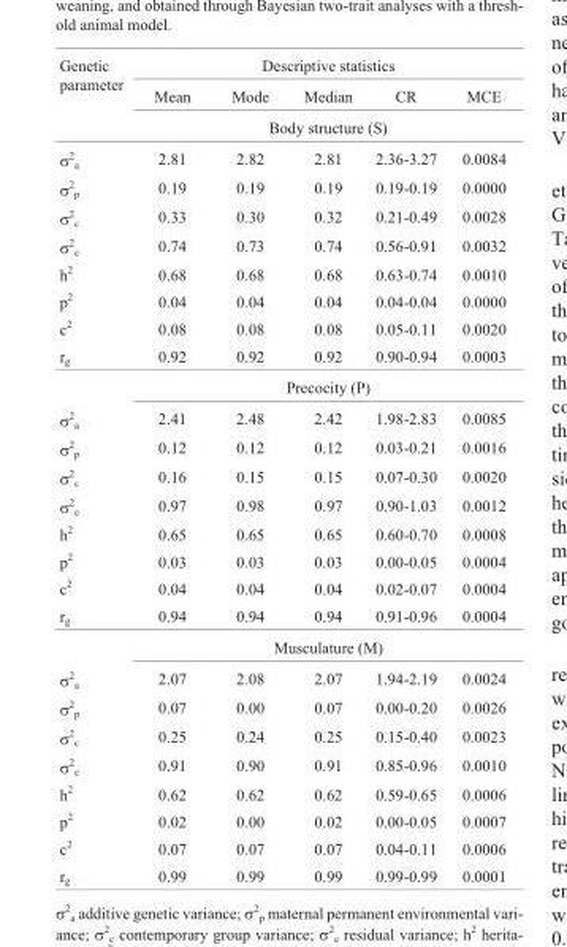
<table><thead><tr><td rowspan="3">Genetic parameter</td><td colspan="5">Descriptive statistics</td></tr><tr><td>Mean</td><td>Mode</td><td>Median</td><td>CR</td><td>MCE</td></tr><tr><td colspan="5">Body structure (S)</td></tr></thead><tbody><tr><td>σ<sup>2</sup> <sub>a</sub></td><td>2.81</td><td>2.82</td><td>2.81</td><td>2.36-3.27</td><td>0.0084</td></tr><tr><td>σ<sup>2</sup> <sub>p</sub></td><td>0.19</td><td>0.19</td><td>0.19</td><td>0.19-0.19</td><td>0.0000</td></tr><tr><td>σ<sup>2</sup> <sub>c</sub></td><td>0.33</td><td>0.30</td><td>0.32</td><td>0.21-0.49</td><td>0.0028</td></tr><tr><td>σ<sup>2</sup> <sub>e</sub></td><td>0.74</td><td>0.73</td><td>0.74</td><td>0.56-0.91</td><td>0.0032</td></tr><tr><td>h<sup>2</sup></td><td>0.68</td><td>0.68</td><td>0.68</td><td>0.63-0.74</td><td>0.0010</td></tr><tr><td>p<sup>2</sup></td><td>0.04</td><td>0.04</td><td>0.04</td><td>0.04-0.04</td><td>0.0000</td></tr><tr><td>c<sup>2</sup></td><td>0.08</td><td>0.08</td><td>0.08</td><td>0.05-0.11</td><td>0.0020</td></tr><tr><td rowspan="2">r<sub>g</sub></td><td>0.92</td><td>0.92</td><td>0.92</td><td>0.90-0.94</td><td>0.0003</td></tr><tr><td colspan="5">Precocity (P)</td></tr><tr><td>σ<sup>2</sup> <sub>a</sub></td><td>2.41</td><td>2.48</td><td>2.42</td><td>1.98-2.83</td><td>0.0085</td></tr><tr><td>σ<sup>2</sup> <sub>p</sub></td><td>0.12</td><td>0.12</td><td>0.12</td><td>0.03-0.21</td><td>0.0016</td></tr><tr><td>σ<sup>2</sup> <sub>c</sub></td><td>0.16</td><td>0.15</td><td>0.15</td><td>0.07-0.30</td><td>0.0020</td></tr><tr><td>σ<sup>2</sup> <sub>e</sub></td><td>0.97</td><td>0.98</td><td>0.97</td><td>0.90-1.03</td><td>0.0012</td></tr><tr><td>h<sup>2</sup></td><td>0.65</td><td>0.65</td><td>0.65</td><td>0.60-0.70</td><td>0.0008</td></tr><tr><td>p<sup>2</sup></td><td>0.03</td><td>0.03</td><td>0.03</td><td>0.00-0.05</td><td>0.0004</td></tr><tr><td>c<sup>2</sup></td><td>0.04</td><td>0.04</td><td>0.04</td><td>0.02-0.07</td><td>0.0004</td></tr><tr><td rowspan="2">r<sub>g</sub></td><td>0.94</td><td>0.94</td><td>0.94</td><td>0.91-0.96</td><td>0.0004</td></tr><tr><td colspan="5">Musculature (M)</td></tr><tr><td>σ<sup>2</sup> <sub>a</sub></td><td>2.07</td><td>2.08</td><td>2.07</td><td>1.94-2.19</td><td>0.0024</td></tr><tr><td>σ<sup>2</sup> <sub>p</sub></td><td>0.07</td><td>0.00</td><td>0.07</td><td>0.00-0.20</td><td>0.0026</td></tr><tr><td>σ<sup>2</sup> <sub>c</sub></td><td>0.25</td><td>0.24</td><td>0.25</td><td>0.15-0.40</td><td>0.0023</td></tr><tr><td>σ<sup>2</sup> <sub>e</sub></td><td>0.91</td><td>0.90</td><td>0.91</td><td>0.85-0.96</td><td>0.0010</td></tr><tr><td>h<sup>2</sup></td><td>0.62</td><td>0.62</td><td>0.62</td><td>0.59-0.65</td><td>0.0006</td></tr><tr><td>p<sup>2</sup></td><td>0.02</td><td>0.00</td><td>0.02</td><td>0.00-0.05</td><td>0.0007</td></tr><tr><td>c<sup>2</sup></td><td>0.07</td><td>0.07</td><td>0.07</td><td>0.04-0.11</td><td>0.0006</td></tr><tr><td>r<sub>g</sub></td><td>0.99</td><td>0.99</td><td>0.99</td><td>0.99-0.99</td><td>0.0001</td></tr></tbody></table>